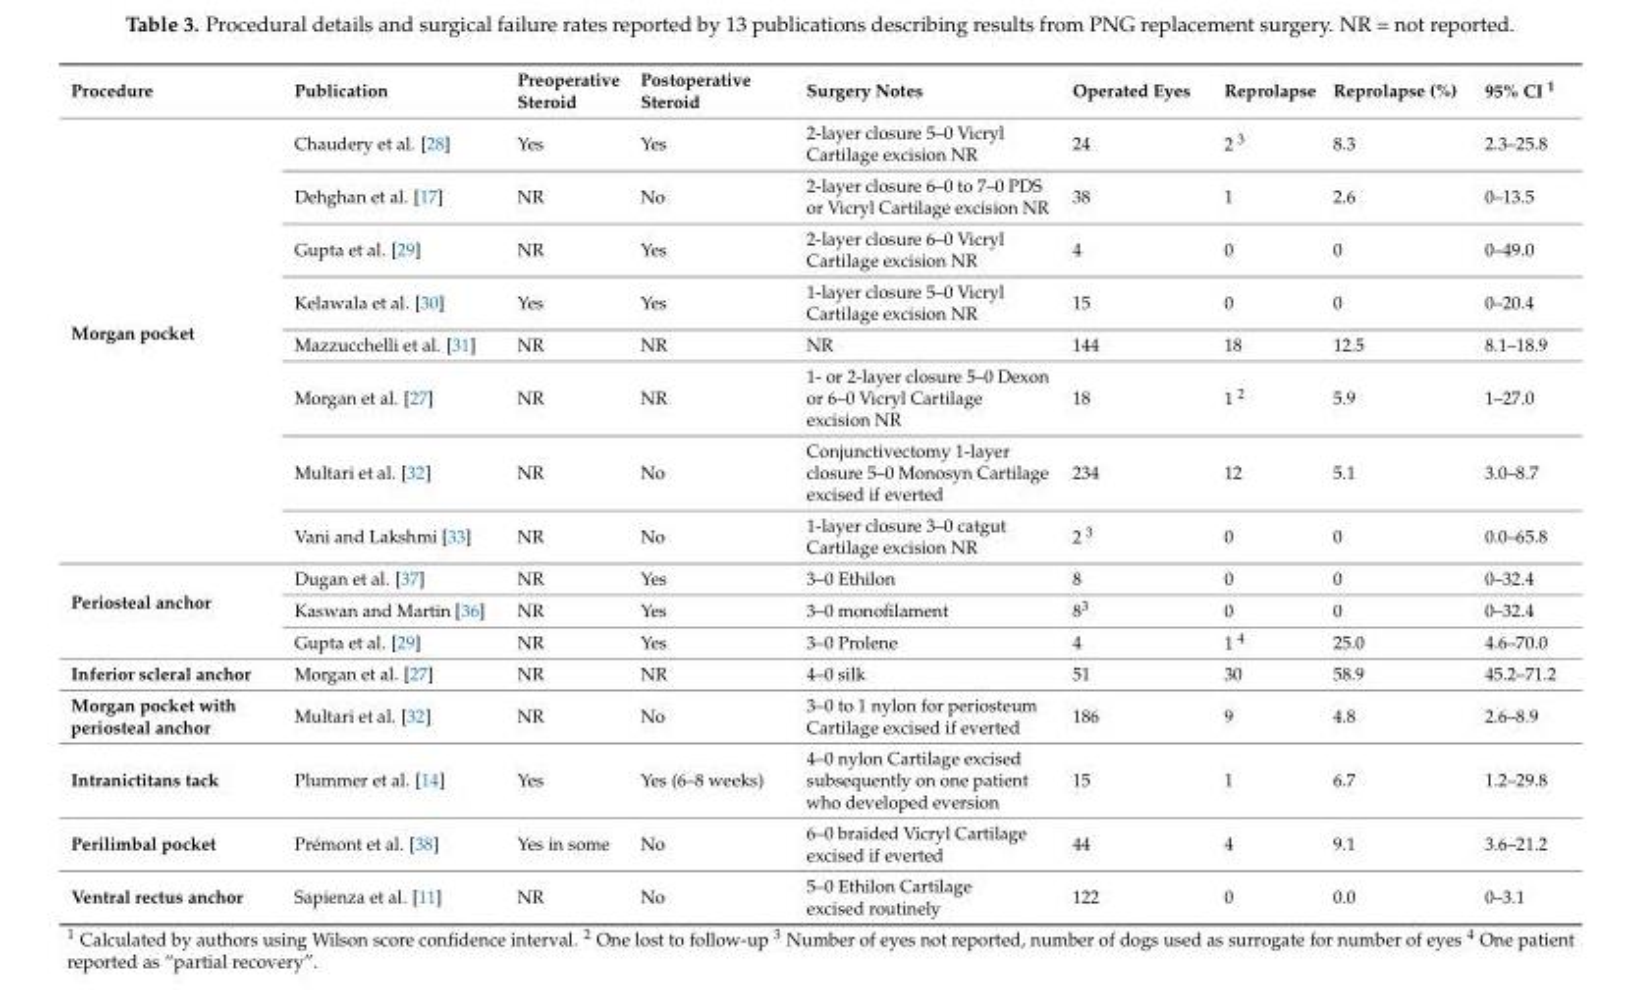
<table><thead><tr><td>Procedure</td><td>Publication</td><td>Preoperative Steroid</td><td>Postoperative Steroid</td><td>Surgery Notes</td><td>Operated Eyes</td><td>Reprolapse</td><td>Reprolapse (%)</td><td>95% CI <sup>1</sup></td></tr></thead><tbody><tr><td rowspan="8">Morgan pocket</td><td>Chaudery et al. [28]</td><td>Yes</td><td>Yes</td><td>2-layer closure 5–0 Vicryl Cartilage excision NR</td><td>24</td><td>2 <sup>3</sup></td><td>8.3</td><td>2.3–25.8</td></tr><tr><td>Dehghan et al. [17]</td><td>NR</td><td>No</td><td>2-layer closure 6–0 to 7–0 PDS or Vicryl Cartilage excision NR</td><td>38</td><td>1</td><td>2.6</td><td>0–13.5</td></tr><tr><td>Gupta et al. [29]</td><td>NR</td><td>Yes</td><td>2-layer closure 6–0 Vicryl Cartilage excision NR</td><td>4</td><td>0</td><td>0</td><td>0–49.0</td></tr><tr><td>Kelawala et al. [30]</td><td>Yes</td><td>Yes</td><td>1-layer closure 5–0 Vicryl Cartilage excision NR</td><td>15</td><td>0</td><td>0</td><td>0–20.4</td></tr><tr><td>Mazzucchelli et al. [31]</td><td>NR</td><td>NR</td><td>NR</td><td>144</td><td>18</td><td>12.5</td><td>8.1–18.9</td></tr><tr><td>Morgan et al. [27]</td><td>NR</td><td>NR</td><td>1- or 2-layer closure 5–0 Dexon or 6–0 Vicryl Cartilage excision NR</td><td>18</td><td>1 <sup>2</sup></td><td>5.9</td><td>1–27.0</td></tr><tr><td>Multari et al. [32]</td><td>NR</td><td>No</td><td>Conjunctivectomy 1-layer closure 5–0 Monosyn Cartilage excised if everted</td><td>234</td><td>12</td><td>5.1</td><td>3.0–8.7</td></tr><tr><td>Vani and Lakshmi [33]</td><td>NR</td><td>No</td><td>1-layer closure 3–0 catgut Cartilage excision NR</td><td>2 <sup>3</sup></td><td>0</td><td>0</td><td>0.0–65.8</td></tr><tr><td rowspan="3">Periosteal anchor</td><td>Dugan et al. [37]</td><td>NR</td><td>Yes</td><td>3–0 Ethilon</td><td>8</td><td>0</td><td>0</td><td>0–32.4</td></tr><tr><td>Kaswan and Martin [36]</td><td>NR</td><td>Yes</td><td>3–0 monofilament</td><td>8<sup>3</sup></td><td>0</td><td>0</td><td>0–32.4</td></tr><tr><td>Gupta et al. [29]</td><td>NR</td><td>Yes</td><td>3–0 Prolene</td><td>4</td><td>1 <sup>4</sup></td><td>25.0</td><td>4.6–70.0</td></tr><tr><td>Inferior scleral anchor</td><td>Morgan et al. [27]</td><td>NR</td><td>NR</td><td>4–0 silk</td><td>51</td><td>30</td><td>58.9</td><td>45.2–71.2</td></tr><tr><td>Morgan pocket with periosteal anchor</td><td>Multari et al. [32]</td><td>NR</td><td>No</td><td>3–0 to 1 nylon for periosteum Cartilage excised if everted</td><td>186</td><td>9</td><td>4.8</td><td>2.6–8.9</td></tr><tr><td>Intranictitans tack</td><td>Plummer et al. [14]</td><td>Yes</td><td>Yes (6–8 weeks)</td><td>4–0 nylon Cartilage excised subsequently on one patient who developed eversion</td><td>15</td><td>1</td><td>6.7</td><td>1.2–29.8</td></tr><tr><td>Perilimbal pocket</td><td>Prémont et al. [38]</td><td>Yes in some</td><td>No</td><td>6–0 braided Vicryl Cartilage excised if everted</td><td>44</td><td>4</td><td>9.1</td><td>3.6–21.2</td></tr><tr><td>Ventral rectus anchor</td><td>Sapienza et al. [11]</td><td>NR</td><td>No</td><td>5–0 Ethilon Cartilage excised routinely</td><td>122</td><td>0</td><td>0.0</td><td>0–3.1</td></tr></tbody></table>